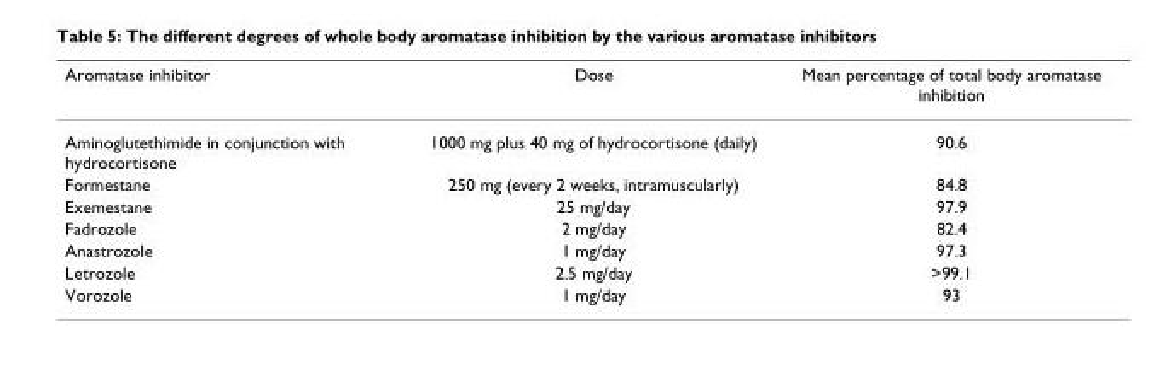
<table><thead><tr><td>Aromatase inhibitor</td><td>Dose</td><td>Mean percentage of total body aromatase inhibition</td></tr></thead><tbody><tr><td>Aminoglutethimide in conjunction with hydrocortisone</td><td>1000 mg plus 40 mg of hydrocortisone (daily)</td><td>90.6</td></tr><tr><td>Formestane</td><td>250 mg (every 2 weeks, intramuscularly)</td><td>84.8</td></tr><tr><td>Exemestane</td><td>25 mg/day</td><td>97.9</td></tr><tr><td>Fadrozole</td><td>2 mg/day</td><td>82.4</td></tr><tr><td>Anastrozole</td><td>1 mg/day</td><td>97.3</td></tr><tr><td>Letrozole</td><td>2.5 mg/day</td><td>&gt;99.1</td></tr><tr><td>Vorozole</td><td>1 mg/day</td><td>93</td></tr></tbody></table>